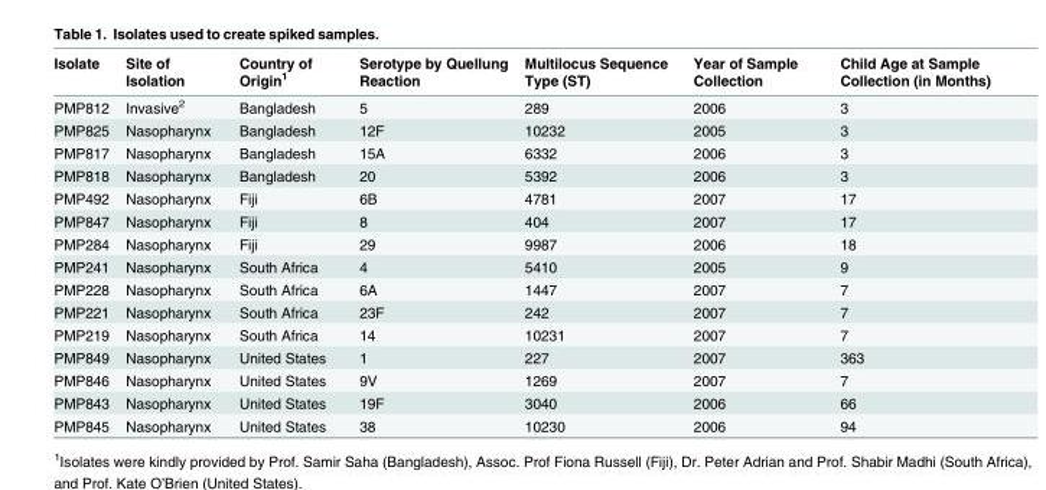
<table><thead><tr><td>Isolate</td><td>Site of Isolation</td><td>Country of Origin<sup>1</sup></td><td>Serotype by Quellung Reaction</td><td>Multilocus Sequence Type (ST)</td><td>Year of Sample Collection</td><td>Child Age at Sample Collection (in Months)</td></tr></thead><tbody><tr><td>PMP812</td><td>Invasive<sup>2</sup></td><td>Bangladesh</td><td>5</td><td>289</td><td>2006</td><td>3</td></tr><tr><td>PMP825</td><td>Nasopharynx</td><td>Bangladesh</td><td>12F</td><td>10232</td><td>2005</td><td>3</td></tr><tr><td>PMP817</td><td>Nasopharynx</td><td>Bangladesh</td><td>15A</td><td>6332</td><td>2006</td><td>3</td></tr><tr><td>PMP818</td><td>Nasopharynx</td><td>Bangladesh</td><td>20</td><td>5392</td><td>2006</td><td>3</td></tr><tr><td>PMP492</td><td>Nasopharynx</td><td>Fiji</td><td>6B</td><td>4781</td><td>2007</td><td>17</td></tr><tr><td>PMP847</td><td>Nasopharynx</td><td>Fiji</td><td>8</td><td>404</td><td>2007</td><td>17</td></tr><tr><td>PMP284</td><td>Nasopharynx</td><td>Fiji</td><td>29</td><td>9987</td><td>2006</td><td>18</td></tr><tr><td>PMP241</td><td>Nasopharynx</td><td>South Africa</td><td>4</td><td>5410</td><td>2005</td><td>9</td></tr><tr><td>PMP228</td><td>Nasopharynx</td><td>South Africa</td><td>6A</td><td>1447</td><td>2007</td><td>7</td></tr><tr><td>PMP221</td><td>Nasopharynx</td><td>South Africa</td><td>23F</td><td>242</td><td>2007</td><td>7</td></tr><tr><td>PMP219</td><td>Nasopharynx</td><td>South Africa</td><td>14</td><td>10231</td><td>2007</td><td>7</td></tr><tr><td>PMP849</td><td>Nasopharynx</td><td>United States</td><td>1</td><td>227</td><td>2007</td><td>363</td></tr><tr><td>PMP846</td><td>Nasopharynx</td><td>United States</td><td>9V</td><td>1269</td><td>2007</td><td>7</td></tr><tr><td>PMP843</td><td>Nasopharynx</td><td>United States</td><td>19F</td><td>3040</td><td>2006</td><td>66</td></tr><tr><td>PMP845</td><td>Nasopharynx</td><td>United States</td><td>38</td><td>10230</td><td>2006</td><td>94</td></tr></tbody></table>